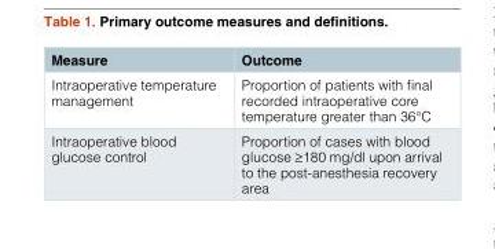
<table><thead><tr><td>Measure</td><td>Outcome</td></tr></thead><tbody><tr><td>Intraoperative temperature management</td><td>Proportion of patients with final recorded intraoperative core temperature greater than 36°C</td></tr><tr><td>Intraoperative blood glucose control</td><td>Proportion of cases with blood glucose ≥180 mg/dl upon arrival to the post-anesthesia recovery area</td></tr></tbody></table>